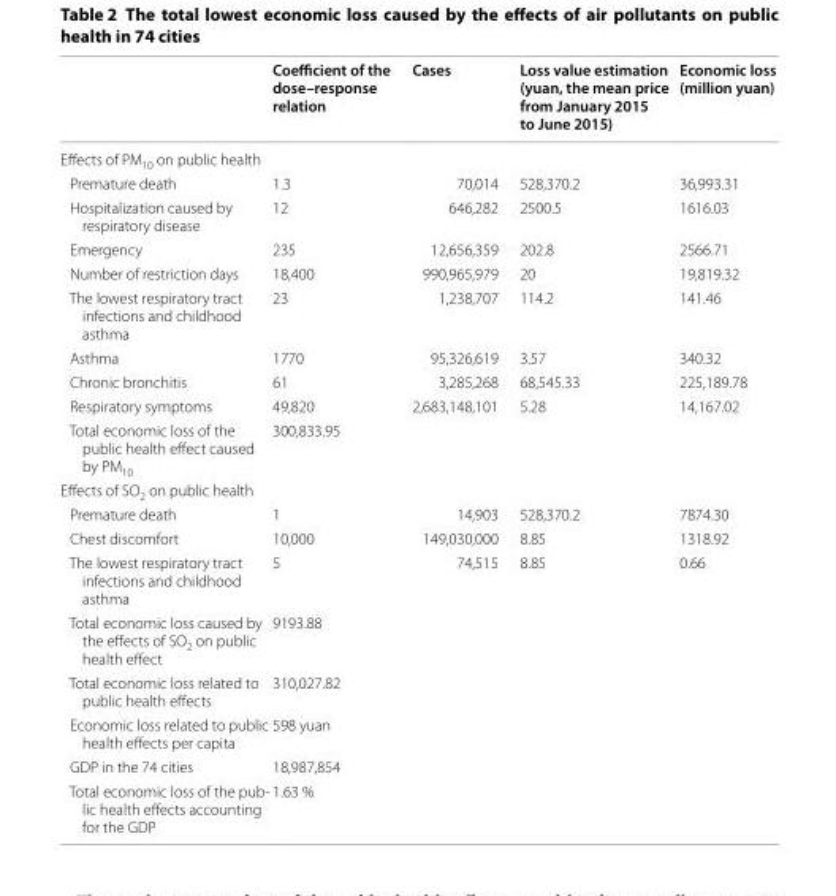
<table><thead><tr><td></td><td>Coefficient of the dose–response relation</td><td>Cases</td><td>Loss value estimation (yuan, the mean price from January 2015 to June 2015)</td><td>Economic loss (million yuan)</td></tr></thead><tbody><tr><td colspan="5">Effects of PM<sub>10</sub> on public health</td></tr><tr><td>Premature death</td><td>1.3</td><td>70,014</td><td>528,370.2</td><td>36,993.31</td></tr><tr><td>Hospitalization caused by respiratory disease</td><td>12</td><td>646,282</td><td>2500.5</td><td>1616.03</td></tr><tr><td>Emergency</td><td>235</td><td>12,656,359</td><td>202.8</td><td>2566.71</td></tr><tr><td>Number of restriction days</td><td>18,400</td><td>990,965,979</td><td>20</td><td>19,819.32</td></tr><tr><td>The lowest respiratory tract infections and childhood asthma</td><td>23</td><td>1,238,707</td><td>114.2</td><td>141.46</td></tr><tr><td>Asthma</td><td>1770</td><td>95,326,619</td><td>3.57</td><td>340.32</td></tr><tr><td>Chronic bronchitis</td><td>61</td><td>3,285,268</td><td>68,545.33</td><td>225,189.78</td></tr><tr><td>Respiratory symptoms</td><td>49,820</td><td>2,683,148,101</td><td>5.28</td><td>14,167.02</td></tr><tr><td>Total economic loss of the public health effect caused by PM<sub>10</sub></td><td colspan="4">300,833.95</td></tr><tr><td colspan="5">Effects of SO<sub>2</sub> on public health</td></tr><tr><td>Premature death</td><td>1</td><td>14,903</td><td>528,370.2</td><td>7874.30</td></tr><tr><td>Chest discomfort</td><td>10,000</td><td>149,030,000</td><td>8.85</td><td>1318.92</td></tr><tr><td>The lowest respiratory tract infections and childhood asthma</td><td>5</td><td>74,515</td><td>8.85</td><td>0.66</td></tr><tr><td>Total economic loss caused by the effects of SO<sub>2</sub> on public health effect</td><td colspan="4">9193.88</td></tr><tr><td>Total economic loss related to public health effects</td><td colspan="4">310,027.82</td></tr><tr><td>Economic loss related to public health effects per capita</td><td colspan="4">598 yuan</td></tr><tr><td>GDP in the 74 cities</td><td colspan="4">18,987,854</td></tr><tr><td>Total economic loss of the pub- lic health effects accounting for the GDP</td><td colspan="4">1.63 %</td></tr></tbody></table>